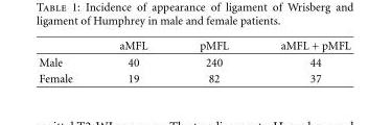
<table><thead><tr><td></td><td>aMFL</td><td>pMFL</td><td>aMFL + pMFL</td></tr></thead><tbody><tr><td>Male</td><td>40</td><td>240</td><td>44</td></tr><tr><td>Female</td><td>19</td><td>82</td><td>37</td></tr></tbody></table>